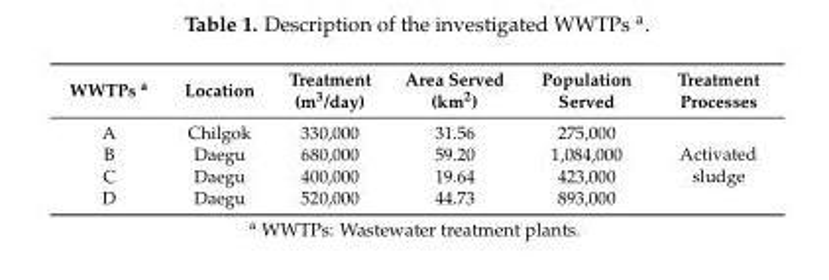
<table><thead><tr><td>WWTPs <sup>a</sup></td><td>Location</td><td>Treatment (m<sup>3</sup>/day)</td><td>Area Served (km<sup>2</sup>)</td><td>Population Served</td><td>Treatment Processes</td></tr></thead><tbody><tr><td>A</td><td>Chilgok</td><td>330,000</td><td>31.56</td><td>275,000</td><td rowspan="4">Activated sludge</td></tr><tr><td>B</td><td>Daegu</td><td>680,000</td><td>59.20</td><td>1,084,000</td></tr><tr><td>C</td><td>Daegu</td><td>400,000</td><td>19.64</td><td>423,000</td></tr><tr><td>D</td><td>Daegu</td><td>520,000</td><td>44.73</td><td>893,000</td></tr></tbody></table>